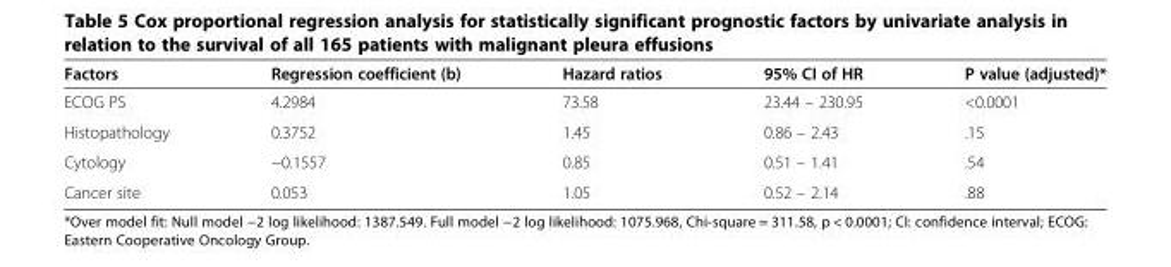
<table><thead><tr><td>Factors</td><td>Regression coefficient (b)</td><td>Hazard ratios</td><td>95% CI of HR</td><td>P value (adjusted)*</td></tr></thead><tbody><tr><td>ECOG PS</td><td>4.2984</td><td>73.58</td><td>23.44 – 230.95</td><td>&lt;0.0001</td></tr><tr><td>Histopathology</td><td>0.3752</td><td>1.45</td><td>0.86 – 2.43</td><td>.15</td></tr><tr><td>Cytology</td><td>−0.1557</td><td>0.85</td><td>0.51 – 1.41</td><td>.54</td></tr><tr><td>Cancer site</td><td>0.053</td><td>1.05</td><td>0.52 – 2.14</td><td>.88</td></tr></tbody></table>